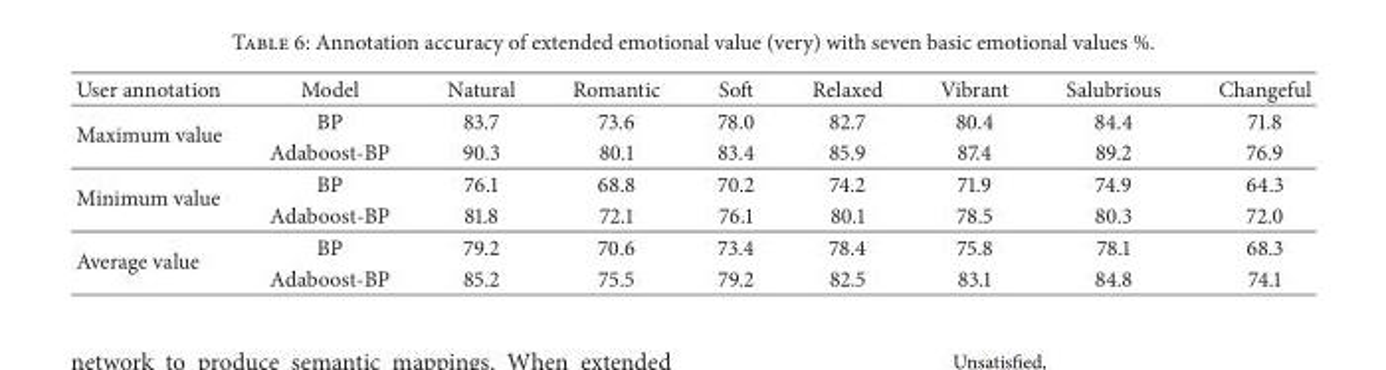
<table><thead><tr><td>User annotation</td><td>Model</td><td>Natural</td><td>Romantic</td><td>Soft</td><td>Relaxed</td><td>Vibrant</td><td>Salubrious</td><td>Changeful</td></tr></thead><tbody><tr><td rowspan="2">Maximum value</td><td>BP</td><td>83.7</td><td>73.6</td><td>78.0</td><td>82.7</td><td>80.4</td><td>84.4</td><td>71.8</td></tr><tr><td>Adaboost-BP</td><td>90.3</td><td>80.1</td><td>83.4</td><td>85.9</td><td>87.4</td><td>89.2</td><td>76.9</td></tr><tr><td rowspan="2">Minimum value</td><td>BP</td><td>76.1</td><td>68.8</td><td>70.2</td><td>74.2</td><td>71.9</td><td>74.9</td><td>64.3</td></tr><tr><td>Adaboost-BP</td><td>81.8</td><td>72.1</td><td>76.1</td><td>80.1</td><td>78.5</td><td>80.3</td><td>72.0</td></tr><tr><td rowspan="2">Average value</td><td>BP</td><td>79.2</td><td>70.6</td><td>73.4</td><td>78.4</td><td>75.8</td><td>78.1</td><td>68.3</td></tr><tr><td>Adaboost-BP</td><td>85.2</td><td>75.5</td><td>79.2</td><td>82.5</td><td>83.1</td><td>84.8</td><td>74.1</td></tr></tbody></table>